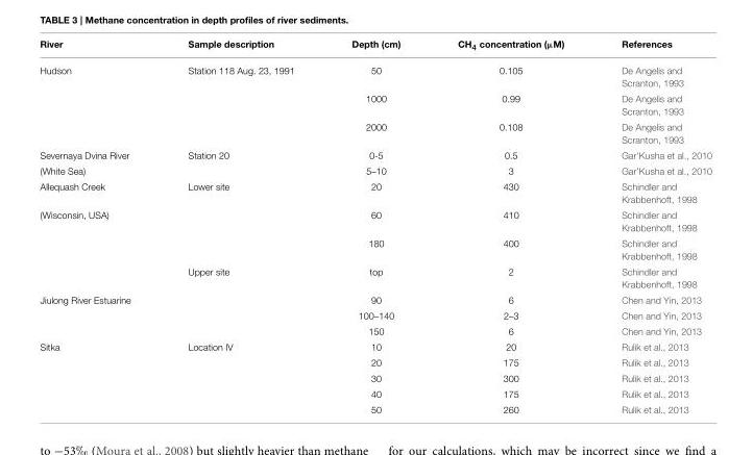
<table><thead><tr><td>River</td><td>Sample description</td><td>Depth (cm)</td><td>CH<sub>4</sub> concentration (µM)</td><td>References</td></tr></thead><tbody><tr><td rowspan="3">Hudson</td><td>Station 118 Aug. 23, 1991</td><td>50</td><td>0.105</td><td>De Angelis and Scranton, 1993</td></tr><tr><td></td><td>1000</td><td>0.99</td><td>De Angelis and Scranton, 1993</td></tr><tr><td></td><td>2000</td><td>0.108</td><td>De Angelis and Scranton, 1993</td></tr><tr><td>Severnaya Dvina River</td><td>Station 20</td><td>0-5</td><td>0.5</td><td>Gar’Kusha et al., 2010</td></tr><tr><td>(White Sea)</td><td></td><td>5–10</td><td>3</td><td>Gar’Kusha et al., 2010</td></tr><tr><td>Allequash Creek</td><td>Lower site</td><td>20</td><td>430</td><td>Schindler and Krabbenhoft, 1998</td></tr><tr><td rowspan="3">(Wisconsin, USA)</td><td></td><td>60</td><td>410</td><td>Schindler and Krabbenhoft, 1998</td></tr><tr><td></td><td>180</td><td>400</td><td>Schindler and Krabbenhoft, 1998</td></tr><tr><td>Upper site</td><td>top</td><td>2</td><td>Schindler and Krabbenhoft, 1998</td></tr><tr><td rowspan="3">Jiulong River Estuarine</td><td></td><td>90</td><td>6</td><td>Chen and Yin, 2013</td></tr><tr><td></td><td>100–140</td><td>2–3</td><td>Chen and Yin, 2013</td></tr><tr><td></td><td>150</td><td>6</td><td>Chen and Yin, 2013</td></tr><tr><td rowspan="5">Sitka</td><td>Location IV</td><td>10</td><td>20</td><td>Rulik et al., 2013</td></tr><tr><td></td><td>20</td><td>175</td><td>Rulik et al., 2013</td></tr><tr><td></td><td>30</td><td>300</td><td>Rulik et al., 2013</td></tr><tr><td></td><td>40</td><td>175</td><td>Rulik et al., 2013</td></tr><tr><td></td><td>50</td><td>260</td><td>Rulik et al., 2013</td></tr></tbody></table>